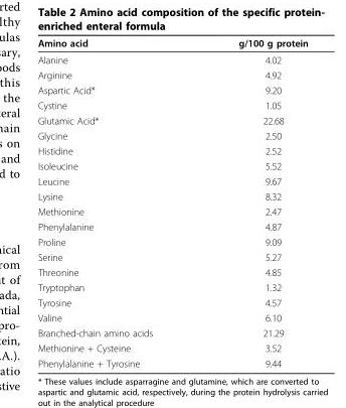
<table><thead><tr><td>Amino acid</td><td>g/100 g protein</td></tr></thead><tbody><tr><td>Alanine</td><td>4.02</td></tr><tr><td>Arginine</td><td>4.92</td></tr><tr><td>Aspartic Acid*</td><td>9.20</td></tr><tr><td>Cystine</td><td>1.05</td></tr><tr><td>Glutamic Acid*</td><td>22.68</td></tr><tr><td>Glycine</td><td>2.50</td></tr><tr><td>Histidine</td><td>2.52</td></tr><tr><td>Isoleucine</td><td>5.52</td></tr><tr><td>Leucine</td><td>9.67</td></tr><tr><td>Lysine</td><td>8.32</td></tr><tr><td>Methionine</td><td>2.47</td></tr><tr><td>Phenylalanine</td><td>4.87</td></tr><tr><td>Proline</td><td>9.09</td></tr><tr><td>Serine</td><td>5.27</td></tr><tr><td>Threonine</td><td>4.85</td></tr><tr><td>Tryptophan</td><td>1.32</td></tr><tr><td>Tyrosine</td><td>4.57</td></tr><tr><td>Valine</td><td>6.10</td></tr><tr><td>Branched-chain amino acids</td><td>21.29</td></tr><tr><td>Methionine + Cysteine</td><td>3.52</td></tr><tr><td>Phenylalanine + Tyrosine</td><td>9.44</td></tr></tbody></table>